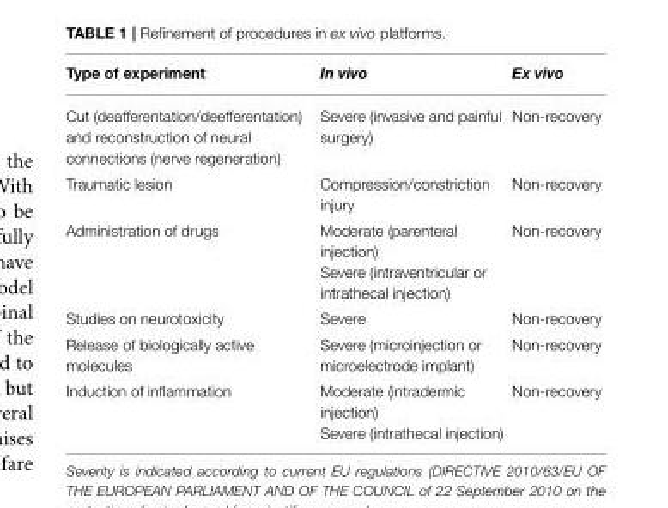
<table><thead><tr><td>Type of experiment</td><td>In vivo</td><td>Ex vivo</td></tr></thead><tbody><tr><td>Cut (deafferentation/deefferentation) and reconstruction of neural connections (nerve regeneration)</td><td>Severe (invasive and painful surgery)</td><td>Non-recovery</td></tr><tr><td>Traumatic lesion</td><td>Compression/constriction injury</td><td>Non-recovery</td></tr><tr><td>Administration of drugs</td><td>Moderate (parenteral injection) Severe (intraventricular or intrathecal injection)</td><td>Non-recovery</td></tr><tr><td>Studies on neurotoxicity</td><td>Severe</td><td>Non-recovery</td></tr><tr><td>Release of biologically active molecules</td><td>Severe (microinjection or microelectrode implant)</td><td>Non-recovery</td></tr><tr><td>Induction of inflammation</td><td>Moderate (intradermic injection) Severe (intrathecal injection)</td><td>Non-recovery</td></tr></tbody></table>